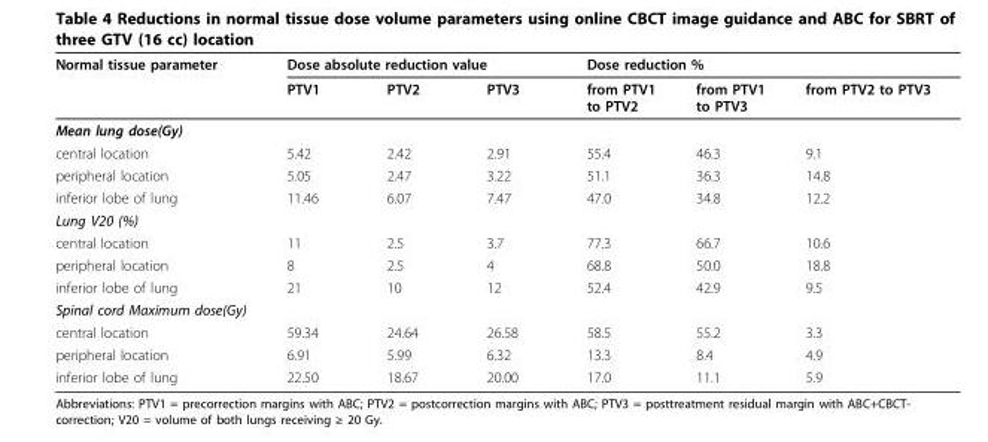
<table><thead><tr><td rowspan="2">Normal tissue parameter</td><td colspan="3">Dose absolute reduction value</td><td colspan="3">Dose reduction %</td></tr><tr><td>PTV1</td><td>PTV2</td><td>PTV3</td><td>from PTV1 to PTV2</td><td>from PTV1 to PTV3</td><td>from PTV2 to PTV3</td></tr></thead><tbody><tr><td colspan="7">Mean lung dose(Gy)</td></tr><tr><td>central location</td><td>5.42</td><td>2.42</td><td>2.91</td><td>55.4</td><td>46.3</td><td>9.1</td></tr><tr><td>peripheral location</td><td>5.05</td><td>2.47</td><td>3.22</td><td>51.1</td><td>36.3</td><td>14.8</td></tr><tr><td>inferior lobe of lung</td><td>11.46</td><td>6.07</td><td>7.47</td><td>47.0</td><td>34.8</td><td>12.2</td></tr><tr><td colspan="7">Lung V20 (%)</td></tr><tr><td>central location</td><td>11</td><td>2.5</td><td>3.7</td><td>77.3</td><td>66.7</td><td>10.6</td></tr><tr><td>peripheral location</td><td>8</td><td>2.5</td><td>4</td><td>68.8</td><td>50.0</td><td>18.8</td></tr><tr><td>inferior lobe of lung</td><td>21</td><td>10</td><td>12</td><td>52.4</td><td>42.9</td><td>9.5</td></tr><tr><td colspan="7">Spinal cord Maximum dose(Gy)</td></tr><tr><td>central location</td><td>59.34</td><td>24.64</td><td>26.58</td><td>58.5</td><td>55.2</td><td>3.3</td></tr><tr><td>peripheral location</td><td>6.91</td><td>5.99</td><td>6.32</td><td>13.3</td><td>8.4</td><td>4.9</td></tr><tr><td>inferior lobe of lung</td><td>22.50</td><td>18.67</td><td>20.00</td><td>17.0</td><td>11.1</td><td>5.9</td></tr></tbody></table>